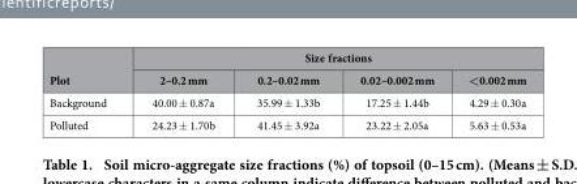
<table><thead><tr><td rowspan="2">Plot</td><td colspan="4">Size fractions</td></tr><tr><td>2–0.2 mm</td><td>0.2–0.02 mm</td><td>0.02–0.002 mm</td><td>&lt;0.002 mm</td></tr></thead><tbody><tr><td>Background</td><td>40.00 ± 0.87a</td><td>35.99 ± 1.33b</td><td>17.25 ± 1.44b</td><td>4.29 ± 0.30a</td></tr><tr><td>Polluted</td><td>24.23 ± 1.70b</td><td>41.45 ± 3.92a</td><td>23.22 ± 2.05a</td><td>5.63 ± 0.53a</td></tr></tbody></table>